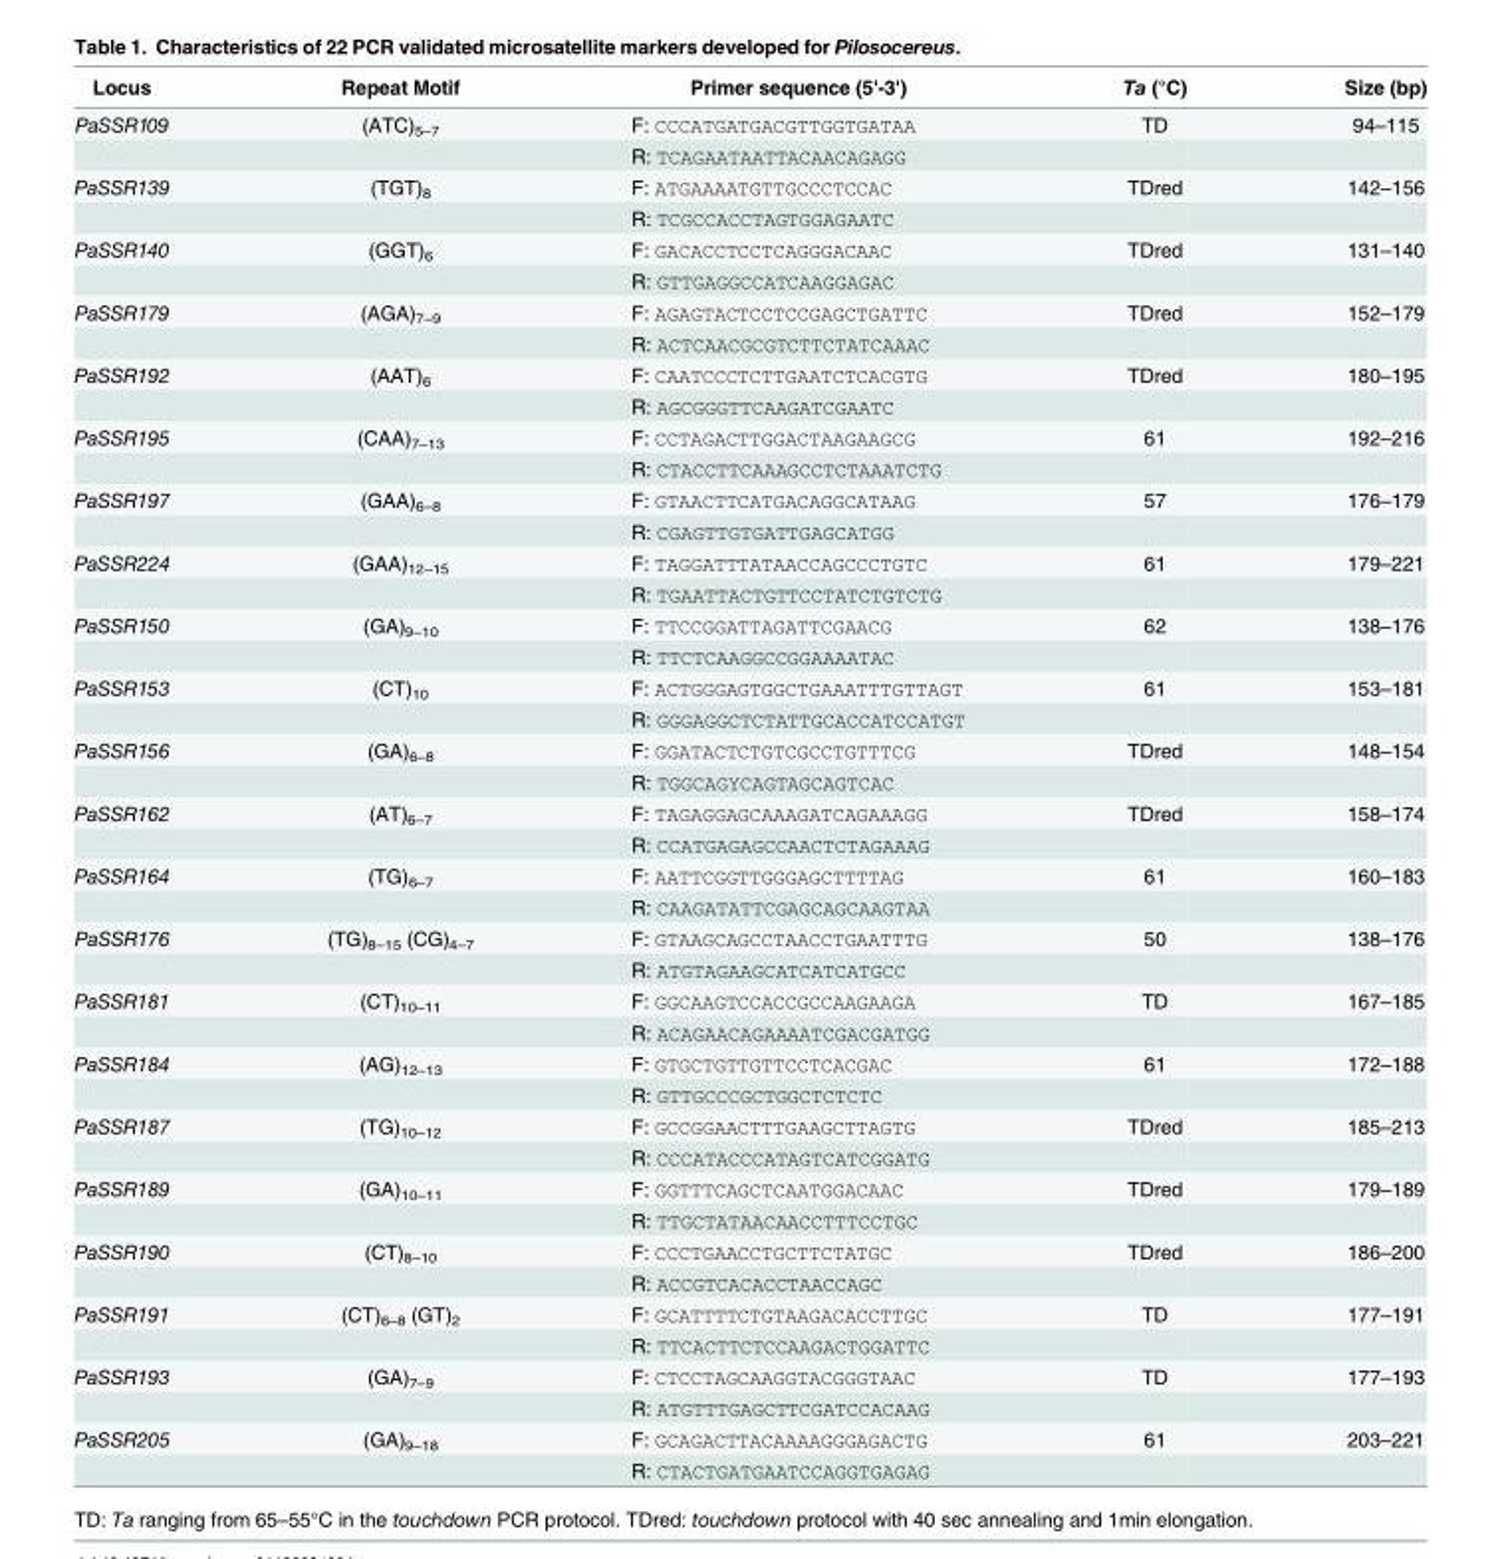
<table><thead><tr><td>Locus</td><td>Repeat Motif</td><td>Primer sequence (5&#x27;-3&#x27;)</td><td>Ta (°C)</td><td>Size (bp)</td></tr></thead><tbody><tr><td rowspan="2">PaSSR109</td><td>(ATC)<sub>5–7</sub></td><td>F: CCCATGATGACGTTGGTGATAA</td><td>TD</td><td>94–115</td></tr><tr><td></td><td>R: TCAGAATAATTACAACAGAGG</td><td></td><td></td></tr><tr><td rowspan="2">PaSSR139</td><td>(TGT)<sub>8</sub></td><td>F: ATGAAAATGTTGCCCTCCAC</td><td>TDred</td><td>142–156</td></tr><tr><td></td><td>R: TCGCCACCTAGTGGAGAATC</td><td></td><td></td></tr><tr><td rowspan="2">PaSSR140</td><td>(GGT)<sub>6</sub></td><td>F: GACACCTCCTCAGGGACAAC</td><td>TDred</td><td>131–140</td></tr><tr><td></td><td>R: GTTGAGGCCATCAAGGAGAC</td><td></td><td></td></tr><tr><td rowspan="2">PaSSR179</td><td>(AGA)<sub>7–9</sub></td><td>F: AGAGTACTCCTCCGAGCTGATTC</td><td>TDred</td><td>152–179</td></tr><tr><td></td><td>R: ACTCAACGCGTCTTCTATCAAAC</td><td></td><td></td></tr><tr><td rowspan="2">PaSSR192</td><td>(AAT)<sub>6</sub></td><td>F: CAATCCCTCTTGAATCTCACGTG</td><td>TDred</td><td>180–195</td></tr><tr><td></td><td>R: AGCGGGTTCAAGATCGAATC</td><td></td><td></td></tr><tr><td rowspan="2">PaSSR195</td><td>(CAA)<sub>7–13</sub></td><td>F: CCTAGACTTGGACTAAGAAGCG</td><td>61</td><td>192–216</td></tr><tr><td></td><td>R: CTACCTTCAAAGCCTCTAAATCTG</td><td></td><td></td></tr><tr><td rowspan="2">PaSSR197</td><td>(GAA)<sub>6–8</sub></td><td>F: GTAACTTCATGACAGGCATAAG</td><td>57</td><td>176–179</td></tr><tr><td></td><td>R: CGAGTTGTGATTGAGCATGG</td><td></td><td></td></tr><tr><td rowspan="2">PaSSR224</td><td>(GAA)<sub>12–15</sub></td><td>F: TAGGATTTATAACCAGCCCTGTC</td><td>61</td><td>179–221</td></tr><tr><td></td><td>R: TGAATTACTGTTCCTATCTGTCTG</td><td></td><td></td></tr><tr><td rowspan="2">PaSSR150</td><td>(GA)<sub>9–10</sub></td><td>F: TTCCGGATTAGATTCGAACG</td><td>62</td><td>138–176</td></tr><tr><td></td><td>R: TTCTCAAGGCCGGAAAATAC</td><td></td><td></td></tr><tr><td rowspan="2">PaSSR153</td><td>(CT)<sub>10</sub></td><td>F: ACTGGGAGTGGCTGAAATTTGTTAGT</td><td>61</td><td>153–181</td></tr><tr><td></td><td>R: GGGAGGCTCTATTGCACCATCCATGT</td><td></td><td></td></tr><tr><td rowspan="2">PaSSR156</td><td>(GA)<sub>6–8</sub></td><td>F: GGATACTCTGTCGCCTGTTTCG</td><td>TDred</td><td>148–154</td></tr><tr><td></td><td>R: TGGCAGYCAGTAGCAGTCAC</td><td></td><td></td></tr><tr><td rowspan="2">PaSSR162</td><td>(AT)<sub>6–7</sub></td><td>F: TAGAGGAGCAAAGATCAGAAAGG</td><td>TDred</td><td>158–174</td></tr><tr><td></td><td>R: CCATGAGAGCCAACTCTAGAAAG</td><td></td><td></td></tr><tr><td rowspan="2">PaSSR164</td><td>(TG)<sub>6–7</sub></td><td>F: AATTCGGTTGGGAGCTTTTAG</td><td>61</td><td>160–183</td></tr><tr><td></td><td>R: CAAGATATTCGAGCAGCAAGTAA</td><td></td><td></td></tr><tr><td rowspan="2">PaSSR176</td><td>(TG)<sub>8–15</sub> (CG)<sub>4–7</sub></td><td>F: GTAAGCAGCCTAACCTGAATTTG</td><td>50</td><td>138–176</td></tr><tr><td></td><td>R: ATGTAGAAGCATCATCATGCC</td><td></td><td></td></tr><tr><td rowspan="2">PaSSR181</td><td>(CT)<sub>10–11</sub></td><td>F: GGCAAGTCCACCGCCAAGAAGA</td><td>TD</td><td>167–185</td></tr><tr><td></td><td>R: ACAGAACAGAAAATCGACGATGG</td><td></td><td></td></tr><tr><td rowspan="2">PaSSR184</td><td>(AG)<sub>12–13</sub></td><td>F: GTGCTGTTGTTCCTCACGAC</td><td>61</td><td>172–188</td></tr><tr><td></td><td>R: GTTGCCCGCTGGCTCTCTC</td><td></td><td></td></tr><tr><td rowspan="2">PaSSR187</td><td>(TG)<sub>10–12</sub></td><td>F: GCCGGAACTTTGAAGCTTAGTG</td><td>TDred</td><td>185–213</td></tr><tr><td></td><td>R: CCCATACCCATAGTCATCGGATG</td><td></td><td></td></tr><tr><td rowspan="2">PaSSR189</td><td>(GA)<sub>10–11</sub></td><td>F: GGTTTCAGCTCAATGGACAAC</td><td>TDred</td><td>179–189</td></tr><tr><td></td><td>R: TTGCTATAACAACCTTTCCTGC</td><td></td><td></td></tr><tr><td rowspan="2">PaSSR190</td><td>(CT)<sub>8–10</sub></td><td>F: CCCTGAACCTGCTTCTATGC</td><td>TDred</td><td>186–200</td></tr><tr><td></td><td>R: ACCGTCACACCTAACCAGC</td><td></td><td></td></tr><tr><td rowspan="2">PaSSR191</td><td>(CT)<sub>6–8</sub> (GT)<sub>2</sub></td><td>F: GCATTTTCTGTAAGACACCTTGC</td><td>TD</td><td>177–191</td></tr><tr><td></td><td>R: TTCACTTCTCCAAGACTGGATTC</td><td></td><td></td></tr><tr><td rowspan="2">PaSSR193</td><td>(GA)<sub>7–9</sub></td><td>F: CTCCTAGCAAGGTACGGGTAAC</td><td>TD</td><td>177–193</td></tr><tr><td></td><td>R: ATGTTTGAGCTTCGATCCACAAG</td><td></td><td></td></tr><tr><td rowspan="2">PaSSR205</td><td>(GA)<sub>9–18</sub></td><td>F: GCAGACTTACAAAAGGGAGACTG</td><td>61</td><td>203–221</td></tr><tr><td></td><td>R: CTACTGATGAATCCAGGTGAGAG</td><td></td><td></td></tr></tbody></table>